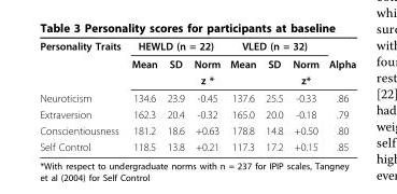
<table><tbody><tr><td rowspan="3">Personality Traits</td><td colspan="3">HEWLD (n = 22)</td><td colspan="3">VLED (n = 32)</td><td></td></tr><tr><td>Mean</td><td>SD</td><td>Norm</td><td>Mean</td><td>SD</td><td>Norm</td><td>Alpha</td></tr><tr><td></td><td></td><td>z *</td><td></td><td></td><td>z*</td><td></td></tr><tr><td>Neuroticism</td><td>134.6</td><td>23.9</td><td>-0.45</td><td>137.6</td><td>25.5</td><td>-0.33</td><td>.86</td></tr><tr><td>Extraversion</td><td>162.3</td><td>20.4</td><td>-0.32</td><td>165.0</td><td>20.0</td><td>-0.18</td><td>.79</td></tr><tr><td>Conscientiousness</td><td>181.2</td><td>18.6</td><td>+0.63</td><td>178.8</td><td>14.8</td><td>+0.50</td><td>.80</td></tr><tr><td>Self Control</td><td>118.5</td><td>13.8</td><td>+0.21</td><td>117.3</td><td>17.2</td><td>+0.15</td><td>.85</td></tr></tbody></table>